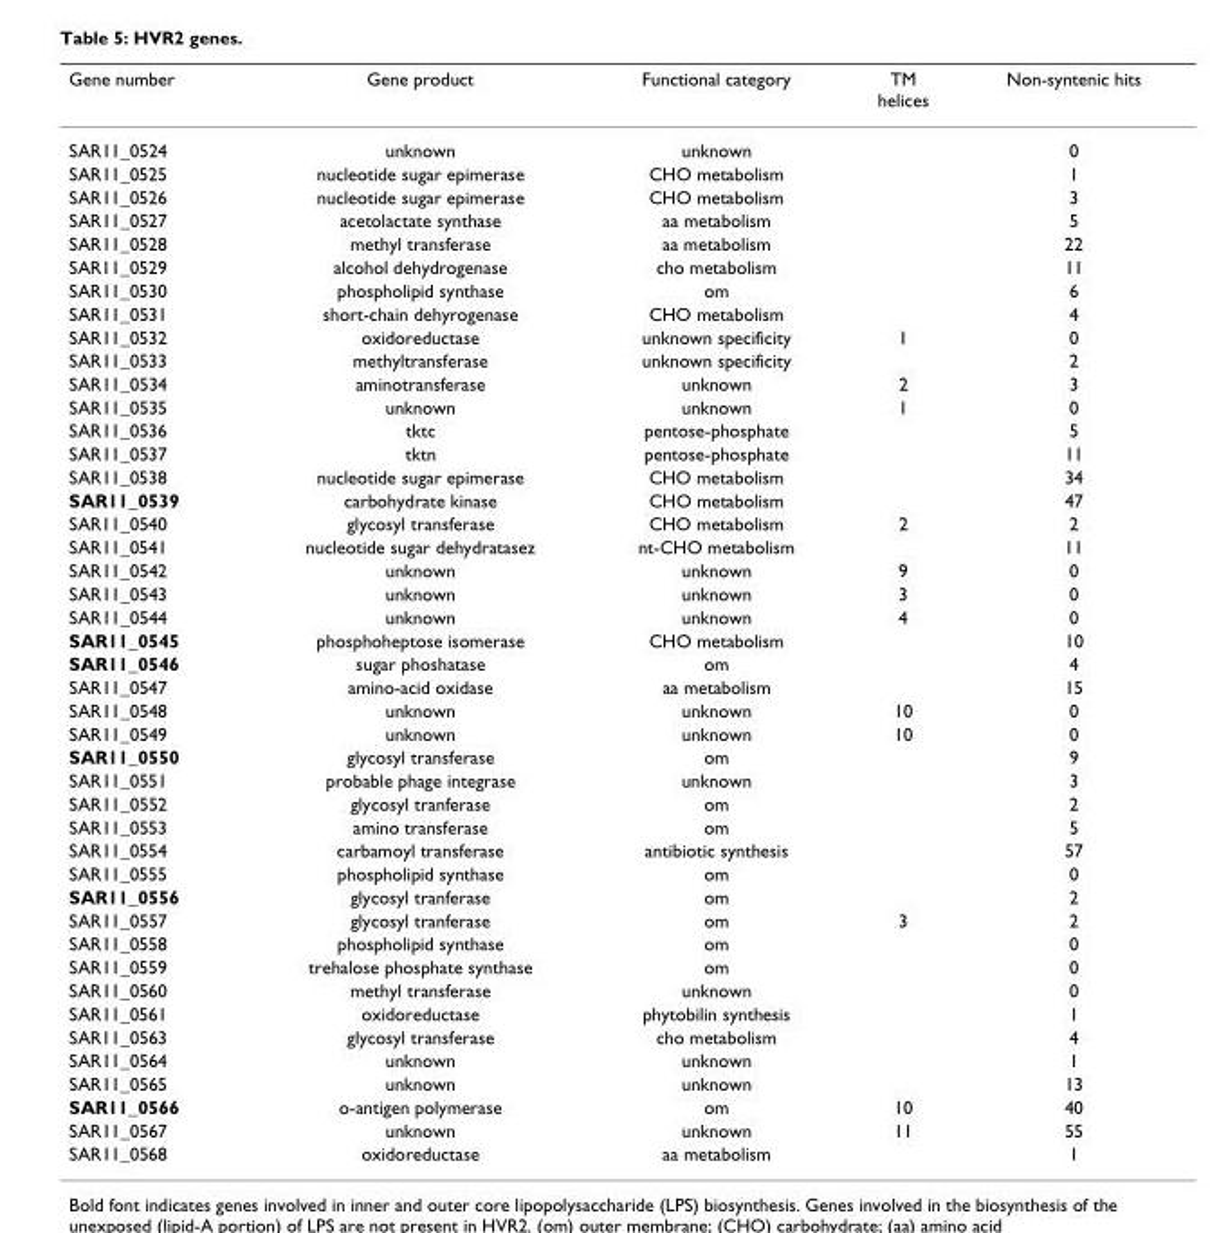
<table><thead><tr><td>Gene number</td><td>Gene product</td><td>Functional category</td><td>TM helices</td><td>Non-syntenic hits</td></tr></thead><tbody><tr><td>SAR11_0524</td><td>unknown</td><td>unknown</td><td></td><td>0</td></tr><tr><td>SAR11_0525</td><td>nucleotide sugar epimerase</td><td>CHO metabolism</td><td></td><td>1</td></tr><tr><td>SAR11_0526</td><td>nucleotide sugar epimerase</td><td>CHO metabolism</td><td></td><td>3</td></tr><tr><td>SAR11_0527</td><td>acetolactate synthase</td><td>aa metabolism</td><td></td><td>5</td></tr><tr><td>SAR11_0528</td><td>methyl transferase</td><td>aa metabolism</td><td></td><td>22</td></tr><tr><td>SAR11_0529</td><td>alcohol dehydrogenase</td><td>cho metabolism</td><td></td><td>11</td></tr><tr><td>SAR11_0530</td><td>phospholipid synthase</td><td>om</td><td></td><td>6</td></tr><tr><td>SAR11_0531</td><td>short-chain dehyrogenase</td><td>CHO metabolism</td><td></td><td>4</td></tr><tr><td>SAR11_0532</td><td>oxidoreductase</td><td>unknown specificity</td><td>1</td><td>0</td></tr><tr><td>SAR11_0533</td><td>methyltransferase</td><td>unknown specificity</td><td></td><td>2</td></tr><tr><td>SAR11_0534</td><td>aminotransferase</td><td>unknown</td><td>2</td><td>3</td></tr><tr><td>SAR11_0535</td><td>unknown</td><td>unknown</td><td>1</td><td>0</td></tr><tr><td>SAR11_0536</td><td>tktc</td><td>pentose-phosphate</td><td></td><td>5</td></tr><tr><td>SAR11_0537</td><td>tktn</td><td>pentose-phosphate</td><td></td><td>11</td></tr><tr><td>SAR11_0538</td><td>nucleotide sugar epimerase</td><td>CHO metabolism</td><td></td><td>34</td></tr><tr><td>SAR11_0539</td><td>carbohydrate kinase</td><td>CHO metabolism</td><td></td><td>47</td></tr><tr><td>SAR11_0540</td><td>glycosyl transferase</td><td>CHO metabolism</td><td>2</td><td>2</td></tr><tr><td>SAR11_0541</td><td>nucleotide sugar dehydratasez</td><td>nt-CHO metabolism</td><td></td><td>11</td></tr><tr><td>SAR11_0542</td><td>unknown</td><td>unknown</td><td>9</td><td>0</td></tr><tr><td>SAR11_0543</td><td>unknown</td><td>unknown</td><td>3</td><td>0</td></tr><tr><td>SAR11_0544</td><td>unknown</td><td>unknown</td><td>4</td><td>0</td></tr><tr><td>SAR11_0545</td><td>phosphoheptose isomerase</td><td>CHO metabolism</td><td></td><td>10</td></tr><tr><td>SAR11_0546</td><td>sugar phoshatase</td><td>om</td><td></td><td>4</td></tr><tr><td>SAR11_0547</td><td>amino-acid oxidase</td><td>aa metabolism</td><td></td><td>15</td></tr><tr><td>SAR11_0548</td><td>unknown</td><td>unknown</td><td>10</td><td>0</td></tr><tr><td>SAR11_0549</td><td>unknown</td><td>unknown</td><td>10</td><td>0</td></tr><tr><td>SAR11_0550</td><td>glycosyl transferase</td><td>om</td><td></td><td>9</td></tr><tr><td>SAR11_0551</td><td>probable phage integrase</td><td>unknown</td><td></td><td>3</td></tr><tr><td>SAR11_0552</td><td>glycosyl tranferase</td><td>om</td><td></td><td>2</td></tr><tr><td>SAR11_0553</td><td>amino transferase</td><td>om</td><td></td><td>5</td></tr><tr><td>SAR11_0554</td><td>carbamoyl transferase</td><td>antibiotic synthesis</td><td></td><td>57</td></tr><tr><td>SAR11_0555</td><td>phospholipid synthase</td><td>om</td><td></td><td>0</td></tr><tr><td>SAR11_0556</td><td>glycosyl tranferase</td><td>om</td><td></td><td>2</td></tr><tr><td>SAR11_0557</td><td>glycosyl tranferase</td><td>om</td><td>3</td><td>2</td></tr><tr><td>SAR11_0558</td><td>phospholipid synthase</td><td>om</td><td></td><td>0</td></tr><tr><td>SAR11_0559</td><td>trehalose phosphate synthase</td><td>om</td><td></td><td>0</td></tr><tr><td>SAR11_0560</td><td>methyl transferase</td><td>unknown</td><td></td><td>0</td></tr><tr><td>SAR11_0561</td><td>oxidoreductase</td><td>phytobilin synthesis</td><td></td><td>1</td></tr><tr><td>SAR11_0563</td><td>glycosyl transferase</td><td>cho metabolism</td><td></td><td>4</td></tr><tr><td>SAR11_0564</td><td>unknown</td><td>unknown</td><td></td><td>1</td></tr><tr><td>SAR11_0565</td><td>unknown</td><td>unknown</td><td></td><td>13</td></tr><tr><td>SAR11_0566</td><td>o-antigen polymerase</td><td>om</td><td>10</td><td>40</td></tr><tr><td>SAR11_0567</td><td>unknown</td><td>unknown</td><td>11</td><td>55</td></tr><tr><td>SAR11_0568</td><td>oxidoreductase</td><td>aa metabolism</td><td></td><td>1</td></tr></tbody></table>